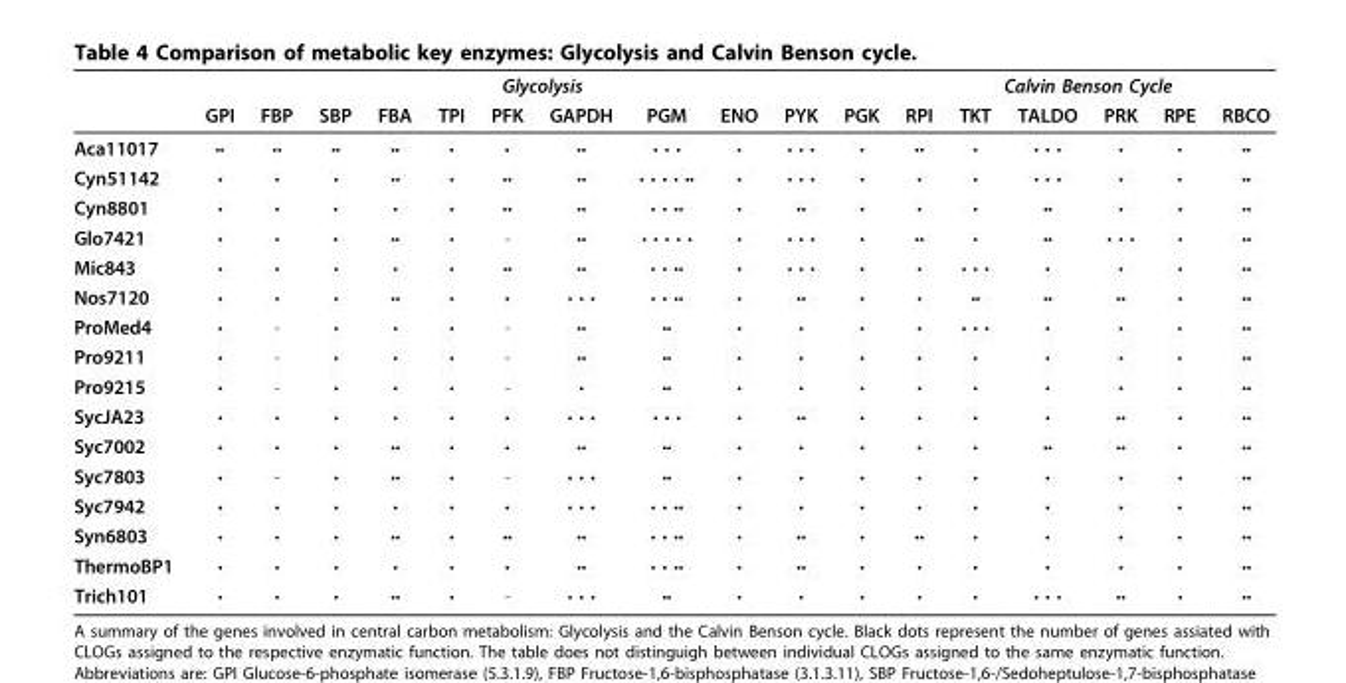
<table><thead><tr><td rowspan="2"></td><td colspan="11">Glycolysis</td><td colspan="6">Calvin Benson Cycle</td></tr><tr><td>GPI</td><td>FBP</td><td>SBP</td><td>FBA</td><td>TPI</td><td>PFK</td><td>GAPDH</td><td>PGM</td><td>ENO</td><td>PYK</td><td>PGK</td><td>RPI</td><td>TKT</td><td>TALDO</td><td>PRK</td><td>RPE</td><td>RBCO</td></tr></thead><tbody><tr><td>Aca11017</td><td>••</td><td>••</td><td>••</td><td>••</td><td>•</td><td>•</td><td>••</td><td>• • •</td><td>•</td><td>• • •</td><td>•</td><td>••</td><td>•</td><td>• • •</td><td>•</td><td>•</td><td>••</td></tr><tr><td>Cyn51142</td><td>•</td><td>•</td><td>•</td><td>••</td><td>•</td><td>••</td><td>••</td><td>• • • • ••</td><td>•</td><td>• • •</td><td>•</td><td>•</td><td>•</td><td>• • •</td><td>•</td><td>•</td><td>••</td></tr><tr><td>Cyn8801</td><td>•</td><td>•</td><td>•</td><td>•</td><td>•</td><td>••</td><td>••</td><td>• • ••</td><td>•</td><td>••</td><td>•</td><td>•</td><td>•</td><td>••</td><td>•</td><td>•</td><td>••</td></tr><tr><td>Glo7421</td><td>•</td><td>•</td><td>•</td><td>••</td><td>•</td><td>-</td><td>••</td><td>• • • • •</td><td>•</td><td>• • •</td><td>•</td><td>••</td><td>•</td><td>••</td><td>• • •</td><td>•</td><td>••</td></tr><tr><td>Mic843</td><td>•</td><td>•</td><td>•</td><td>•</td><td>•</td><td>••</td><td>••</td><td>• • ••</td><td>•</td><td>• • •</td><td>•</td><td>•</td><td>• • •</td><td>•</td><td>•</td><td>•</td><td>••</td></tr><tr><td>Nos7120</td><td>•</td><td>•</td><td>•</td><td>••</td><td>•</td><td>•</td><td>• • •</td><td>• • ••</td><td>•</td><td>••</td><td>•</td><td>•</td><td>••</td><td>••</td><td>••</td><td>•</td><td>••</td></tr><tr><td>ProMed4</td><td>•</td><td>-</td><td>•</td><td>•</td><td>•</td><td>-</td><td>••</td><td>••</td><td>•</td><td>•</td><td>•</td><td>•</td><td>• • •</td><td>•</td><td>•</td><td>•</td><td>••</td></tr><tr><td>Pro9211</td><td>•</td><td>-</td><td>•</td><td>•</td><td>•</td><td>-</td><td>••</td><td>••</td><td>•</td><td>•</td><td>•</td><td>•</td><td>•</td><td>•</td><td>•</td><td>•</td><td>••</td></tr><tr><td>Pro9215</td><td>•</td><td>-</td><td>•</td><td>•</td><td>•</td><td>-</td><td>•</td><td>••</td><td>•</td><td>•</td><td>•</td><td>•</td><td>•</td><td>•</td><td>•</td><td>•</td><td>••</td></tr><tr><td>SycJA23</td><td>•</td><td>•</td><td>•</td><td>•</td><td>•</td><td>•</td><td>• • •</td><td>• • •</td><td>•</td><td>••</td><td>•</td><td>•</td><td>•</td><td>•</td><td>••</td><td>•</td><td>••</td></tr><tr><td>Syc7002</td><td>•</td><td>•</td><td>•</td><td>••</td><td>•</td><td>•</td><td>••</td><td>••</td><td>•</td><td>•</td><td>•</td><td>•</td><td>•</td><td>••</td><td>••</td><td>•</td><td>••</td></tr><tr><td>Syc7803</td><td>•</td><td>-</td><td>•</td><td>••</td><td>•</td><td>-</td><td>• • •</td><td>••</td><td>•</td><td>•</td><td>•</td><td>•</td><td>•</td><td>•</td><td>•</td><td>•</td><td>••</td></tr><tr><td>Syc7942</td><td>•</td><td>•</td><td>•</td><td>•</td><td>•</td><td>•</td><td>• • •</td><td>• • ••</td><td>•</td><td>•</td><td>•</td><td>•</td><td>•</td><td>•</td><td>•</td><td>•</td><td>••</td></tr><tr><td>Syn6803</td><td>•</td><td>•</td><td>•</td><td>••</td><td>•</td><td>••</td><td>••</td><td>• • ••</td><td>•</td><td>••</td><td>•</td><td>••</td><td>•</td><td>•</td><td>•</td><td>•</td><td>••</td></tr><tr><td>ThermoBP1</td><td>•</td><td>•</td><td>•</td><td>•</td><td>•</td><td>•</td><td>••</td><td>• • ••</td><td>•</td><td>••</td><td>•</td><td>•</td><td>•</td><td>•</td><td>•</td><td>•</td><td>••</td></tr><tr><td>Trich101</td><td>•</td><td>•</td><td>•</td><td>••</td><td>•</td><td>-</td><td>• • •</td><td>••</td><td>•</td><td>•</td><td>•</td><td>•</td><td>•</td><td>• • •</td><td>••</td><td>•</td><td>••</td></tr></tbody></table>